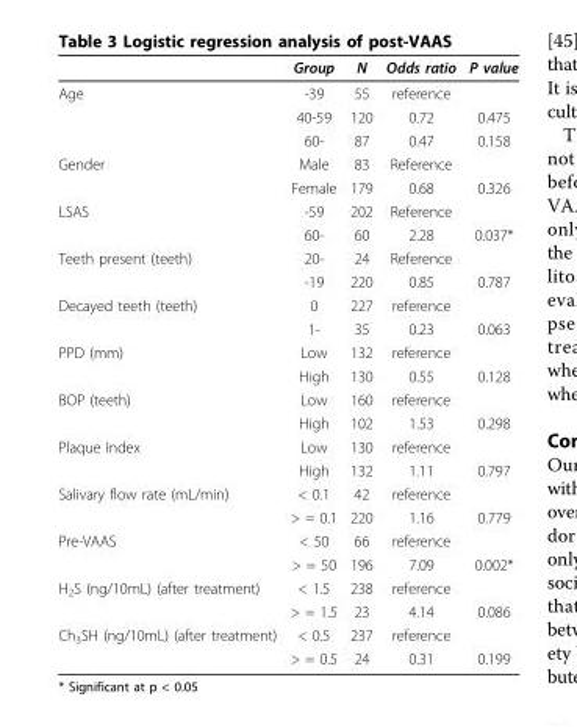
<table><thead><tr><td></td><td>Group</td><td>N</td><td>Odds ratio</td><td>P value</td></tr></thead><tbody><tr><td rowspan="3">Age</td><td>-39</td><td>55</td><td>reference</td><td></td></tr><tr><td>40-59</td><td>120</td><td>0.72</td><td>0.475</td></tr><tr><td>60-</td><td>87</td><td>0.47</td><td>0.158</td></tr><tr><td rowspan="2">Gender</td><td>Male</td><td>83</td><td>Reference</td><td></td></tr><tr><td>Female</td><td>179</td><td>0.68</td><td>0.326</td></tr><tr><td rowspan="2">LSAS</td><td>-59</td><td>202</td><td>Reference</td><td></td></tr><tr><td>60-</td><td>60</td><td>2.28</td><td>0.037*</td></tr><tr><td rowspan="2">Teeth present (teeth)</td><td>20-</td><td>24</td><td>Reference</td><td></td></tr><tr><td>-19</td><td>220</td><td>0.85</td><td>0.787</td></tr><tr><td rowspan="2">Decayed teeth (teeth)</td><td>0</td><td>227</td><td>reference</td><td></td></tr><tr><td>1-</td><td>35</td><td>0.23</td><td>0.063</td></tr><tr><td rowspan="2">PPD (mm)</td><td>Low</td><td>132</td><td>reference</td><td></td></tr><tr><td>High</td><td>130</td><td>0.55</td><td>0.128</td></tr><tr><td rowspan="2">BOP (teeth)</td><td>Low</td><td>160</td><td>reference</td><td></td></tr><tr><td>High</td><td>102</td><td>1.53</td><td>0.298</td></tr><tr><td rowspan="2">Plaque Index</td><td>Low</td><td>130</td><td>reference</td><td></td></tr><tr><td>High</td><td>132</td><td>1.11</td><td>0.797</td></tr><tr><td rowspan="2">Salivary flow rate (mL/min)</td><td>&lt; 0.1</td><td>42</td><td>reference</td><td></td></tr><tr><td>&gt; = 0.1</td><td>220</td><td>1.16</td><td>0.779</td></tr><tr><td rowspan="2">Pre-VAAS</td><td>&lt; 50</td><td>66</td><td>reference</td><td></td></tr><tr><td>&gt; = 50</td><td>196</td><td>7.09</td><td>0.002*</td></tr><tr><td rowspan="2">H<sub>2</sub>S (ng/10mL) (after treatment)</td><td>&lt; 1.5</td><td>238</td><td>reference</td><td></td></tr><tr><td>&gt; = 1.5</td><td>23</td><td>4.14</td><td>0.086</td></tr><tr><td rowspan="2">Ch<sub>3</sub>SH (ng/10mL) (after treatment)</td><td>&lt; 0.5</td><td>237</td><td>reference</td><td></td></tr><tr><td>&gt; = 0.5</td><td>24</td><td>0.31</td><td>0.199</td></tr></tbody></table>